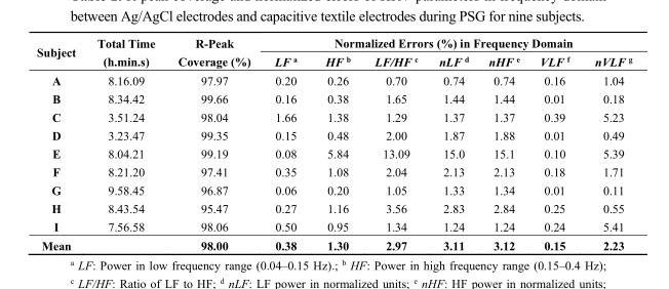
<table><thead><tr><td rowspan="2">Subject</td><td rowspan="2">Total Time (h.min.s)</td><td rowspan="2">R-Peak Coverage (%)</td><td colspan="7">Normalized Errors (%) in Frequency Domain</td></tr><tr><td>LF <sup>a</sup></td><td>HF <sup>b</sup></td><td>LF/HF <sup>c</sup></td><td>nLF <sup>d</sup></td><td>nHF <sup>e</sup></td><td>VLF <sup>f</sup></td><td>nVLF <sup>g</sup></td></tr></thead><tbody><tr><td>A</td><td>8.16.09</td><td>97.97</td><td>0.20</td><td>0.26</td><td>0.70</td><td>0.74</td><td>0.74</td><td>0.16</td><td>1.04</td></tr><tr><td>B</td><td>8.34.42</td><td>99.66</td><td>0.16</td><td>0.38</td><td>1.65</td><td>1.44</td><td>1.44</td><td>0.01</td><td>0.18</td></tr><tr><td>C</td><td>3.51.24</td><td>98.04</td><td>1.66</td><td>1.38</td><td>1.29</td><td>1.37</td><td>1.37</td><td>0.39</td><td>5.23</td></tr><tr><td>D</td><td>3.23.47</td><td>99.35</td><td>0.15</td><td>0.48</td><td>2.00</td><td>1.87</td><td>1.88</td><td>0.01</td><td>0.49</td></tr><tr><td>E</td><td>8.04.21</td><td>99.19</td><td>0.08</td><td>5.84</td><td>13.09</td><td>15.0</td><td>15.1</td><td>0.10</td><td>5.39</td></tr><tr><td>F</td><td>8.21.20</td><td>97.41</td><td>0.35</td><td>1.08</td><td>2.04</td><td>2.13</td><td>2.13</td><td>0.18</td><td>1.71</td></tr><tr><td>G</td><td>9.58.45</td><td>96.87</td><td>0.06</td><td>0.20</td><td>1.05</td><td>1.33</td><td>1.34</td><td>0.01</td><td>0.11</td></tr><tr><td>H</td><td>8.43.54</td><td>95.47</td><td>0.27</td><td>1.16</td><td>3.56</td><td>2.83</td><td>2.84</td><td>0.25</td><td>0.55</td></tr><tr><td>I</td><td>7.56.58</td><td>98.06</td><td>0.50</td><td>0.95</td><td>1.34</td><td>1.24</td><td>1.24</td><td>0.24</td><td>5.41</td></tr><tr><td>Mean</td><td></td><td>98.00</td><td>0.38</td><td>1.30</td><td>2.97</td><td>3.11</td><td>3.12</td><td>0.15</td><td>2.23</td></tr></tbody></table>